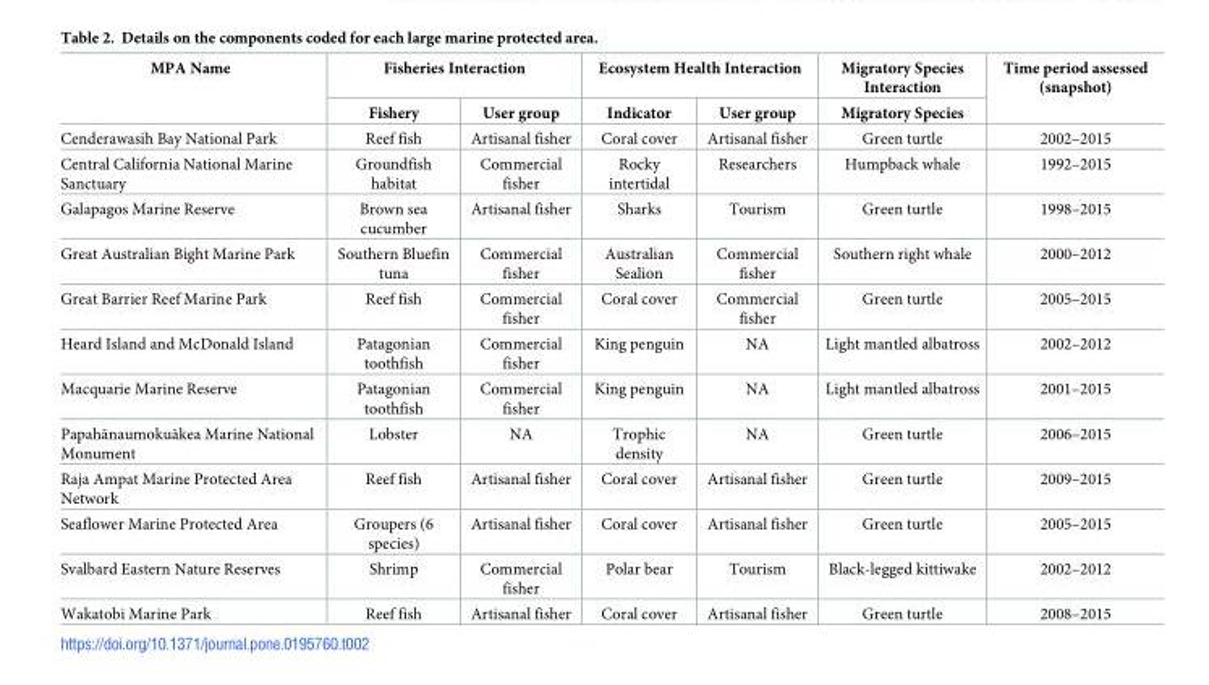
<table><thead><tr><td rowspan="2">MPA Name</td><td colspan="2">Fisheries Interaction</td><td colspan="2">Ecosystem Health Interaction</td><td rowspan="2">Migratory Species Interaction Migratory Species</td><td rowspan="2">Time period assessed (snapshot)</td></tr><tr><td>Fishery</td><td>User group</td><td>Indicator</td><td>User group</td></tr></thead><tbody><tr><td>Cenderawasih Bay National Park</td><td>Reef fish</td><td>Artisanal fisher</td><td>Coral cover</td><td>Artisanal fisher</td><td>Green turtle</td><td>2002–2015</td></tr><tr><td>Central California National Marine Sanctuary</td><td>Groundfish habitat</td><td>Commercial fisher</td><td>Rocky intertidal</td><td>Researchers</td><td>Humpback whale</td><td>1992–2015</td></tr><tr><td>Galapagos Marine Reserve</td><td>Brown sea cucumber</td><td>Artisanal fisher</td><td>Sharks</td><td>Tourism</td><td>Green turtle</td><td>1998–2015</td></tr><tr><td>Great Australian Bight Marine Park</td><td>Southern Bluefin tuna</td><td>Commercial fisher</td><td>Australian Sealion</td><td>Commercial fisher</td><td>Southern right whale</td><td>2000–2012</td></tr><tr><td>Great Barrier Reef Marine Park</td><td>Reef fish</td><td>Commercial fisher</td><td>Coral cover</td><td>Commercial fisher</td><td>Green turtle</td><td>2005–2015</td></tr><tr><td>Heard Island and McDonald Island</td><td>Patagonian toothfish</td><td>Commercial fisher</td><td>King penguin</td><td>NA</td><td>Light mantled albatross</td><td>2002–2012</td></tr><tr><td>Macquarie Marine Reserve</td><td>Patagonian toothfish</td><td>Commercial fisher</td><td>King penguin</td><td>NA</td><td>Light mantled albatross</td><td>2001–2015</td></tr><tr><td>Papahānaumokuākea Marine National Monument</td><td>Lobster</td><td>NA</td><td>Trophic density</td><td>NA</td><td>Green turtle</td><td>2006–2015</td></tr><tr><td>Raja Ampat Marine Protected Area Network</td><td>Reef fish</td><td>Artisanal fisher</td><td>Coral cover</td><td>Artisanal fisher</td><td>Green turtle</td><td>2009–2015</td></tr><tr><td>Seaflower Marine Protected Area</td><td>Groupers (6 species)</td><td>Artisanal fisher</td><td>Coral cover</td><td>Artisanal fisher</td><td>Green turtle</td><td>2005–2015</td></tr><tr><td>Svalbard Eastern Nature Reserves</td><td>Shrimp</td><td>Commercial fisher</td><td>Polar bear</td><td>Tourism</td><td>Black-legged kittiwake</td><td>2002–2012</td></tr><tr><td>Wakatobi Marine Park</td><td>Reef fish</td><td>Artisanal fisher</td><td>Coral cover</td><td>Artisanal fisher</td><td>Green turtle</td><td>2008–2015</td></tr></tbody></table>